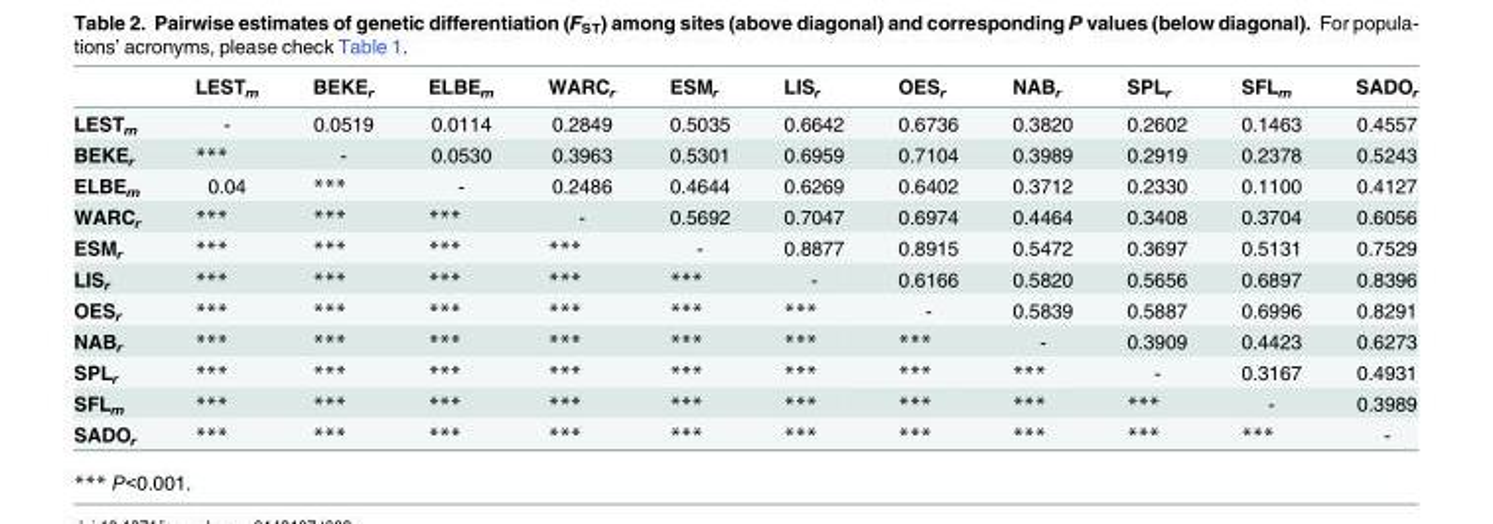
<table><thead><tr><td></td><td>LEST<sub>m</sub></td><td>BEKE<sub>r</sub></td><td>ELBE<sub>m</sub></td><td>WARC<sub>r</sub></td><td>ESM<sub>r</sub></td><td>LIS<sub>r</sub></td><td>OES<sub>r</sub></td><td>NAB<sub>r</sub></td><td>SPL<sub>r</sub></td><td>SFL<sub>m</sub></td><td>SADO<sub>r</sub></td></tr></thead><tbody><tr><td>LEST<sub>m</sub></td><td>-</td><td>0.0519</td><td>0.0114</td><td>0.2849</td><td>0.5035</td><td>0.6642</td><td>0.6736</td><td>0.3820</td><td>0.2602</td><td>0.1463</td><td>0.4557</td></tr><tr><td>BEKE<sub>r</sub></td><td>***</td><td>-</td><td>0.0530</td><td>0.3963</td><td>0.5301</td><td>0.6959</td><td>0.7104</td><td>0.3989</td><td>0.2919</td><td>0.2378</td><td>0.5243</td></tr><tr><td>ELBE<sub>m</sub></td><td>0.04</td><td>***</td><td>-</td><td>0.2486</td><td>0.4644</td><td>0.6269</td><td>0.6402</td><td>0.3712</td><td>0.2330</td><td>0.1100</td><td>0.4127</td></tr><tr><td>WARC<sub>r</sub></td><td>***</td><td>***</td><td>***</td><td>-</td><td>0.5692</td><td>0.7047</td><td>0.6974</td><td>0.4464</td><td>0.3408</td><td>0.3704</td><td>0.6056</td></tr><tr><td>ESM<sub>r</sub></td><td>***</td><td>***</td><td>***</td><td>***</td><td>-</td><td>0.8877</td><td>0.8915</td><td>0.5472</td><td>0.3697</td><td>0.5131</td><td>0.7529</td></tr><tr><td>LIS<sub>r</sub></td><td>***</td><td>***</td><td>***</td><td>***</td><td>***</td><td>-</td><td>0.6166</td><td>0.5820</td><td>0.5656</td><td>0.6897</td><td>0.8396</td></tr><tr><td>OES<sub>r</sub></td><td>***</td><td>***</td><td>***</td><td>***</td><td>***</td><td>***</td><td>-</td><td>0.5839</td><td>0.5887</td><td>0.6996</td><td>0.8291</td></tr><tr><td>NAB<sub>r</sub></td><td>***</td><td>***</td><td>***</td><td>***</td><td>***</td><td>***</td><td>***</td><td>-</td><td>0.3909</td><td>0.4423</td><td>0.6273</td></tr><tr><td>SPL<sub>r</sub></td><td>***</td><td>***</td><td>***</td><td>***</td><td>***</td><td>***</td><td>***</td><td>***</td><td>-</td><td>0.3167</td><td>0.4931</td></tr><tr><td>SFL<sub>m</sub></td><td>***</td><td>***</td><td>***</td><td>***</td><td>***</td><td>***</td><td>***</td><td>***</td><td>***</td><td>-</td><td>0.3989</td></tr><tr><td>SADO<sub>r</sub></td><td>***</td><td>***</td><td>***</td><td>***</td><td>***</td><td>***</td><td>***</td><td>***</td><td>***</td><td>***</td><td>-</td></tr></tbody></table>